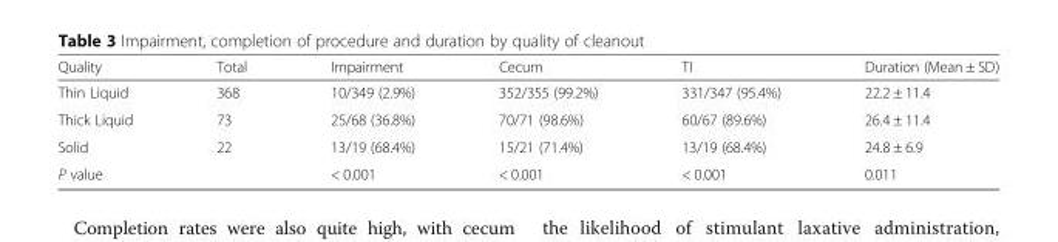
<table><thead><tr><td>Quality</td><td>Total</td><td>Impairment</td><td>Cecum</td><td>TI</td><td>Duration (Mean ± SD)</td></tr></thead><tbody><tr><td>Thin Liquid</td><td>368</td><td>10/349 (2.9%)</td><td>352/355 (99.2%)</td><td>331/347 (95.4%)</td><td>22.2 ± 11.4</td></tr><tr><td>Thick Liquid</td><td>73</td><td>25/68 (36.8%)</td><td>70/71 (98.6%)</td><td>60/67 (89.6%)</td><td>26.4 ± 11.4</td></tr><tr><td>Solid</td><td>22</td><td>13/19 (68.4%)</td><td>15/21 (71.4%)</td><td>13/19 (68.4%)</td><td>24.8 ± 6.9</td></tr><tr><td>P value</td><td></td><td>&lt; 0.001</td><td>&lt; 0.001</td><td>&lt; 0.001</td><td>0.011</td></tr></tbody></table>